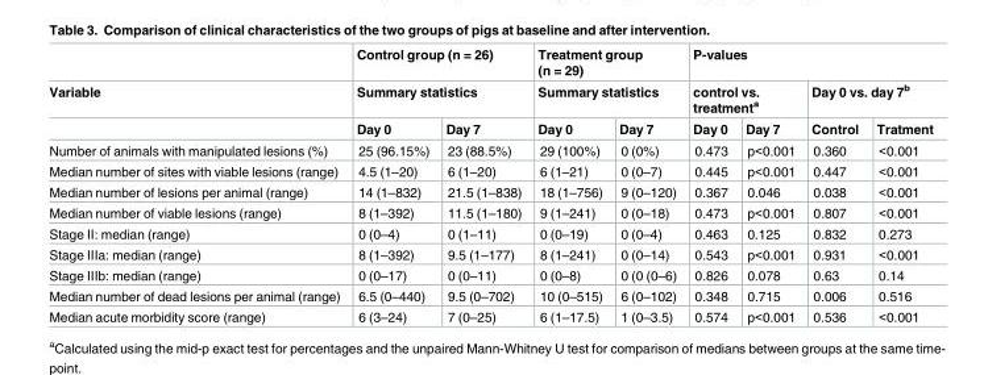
<table><thead><tr><td rowspan="3">Variable</td><td rowspan="2" colspan="2">Control group (n = 26) Summary statistics</td><td rowspan="2" colspan="2">Treatment group (n = 29) Summary statistics</td><td colspan="4">P-values</td></tr><tr><td colspan="2">control vs. treatment<sup>a</sup></td><td colspan="2">Day 0 vs. day 7<sup>b</sup></td></tr><tr><td>Day 0</td><td>Day 7</td><td>Day 0</td><td>Day 7</td><td>Day 0</td><td>Day 7</td><td>Control</td><td>Tratment</td></tr></thead><tbody><tr><td>Number of animals with manipulated lesions (%)</td><td>25 (96.15%)</td><td>23 (88.5%)</td><td>29 (100%)</td><td>0 (0%)</td><td>0.473</td><td>p&lt;0.001</td><td>0.360</td><td>&lt;0.001</td></tr><tr><td>Median number of sites with viable lesions (range)</td><td>4.5 (1–20)</td><td>6 (1–20)</td><td>6 (1–21)</td><td>0 (0–7)</td><td>0.445</td><td>p&lt;0.001</td><td>0.447</td><td>&lt;0.001</td></tr><tr><td>Median number of lesions per animal (range)</td><td>14 (1–832)</td><td>21.5 (1–838)</td><td>18 (1–756)</td><td>9 (0–120)</td><td>0.367</td><td>0.046</td><td>0.038</td><td>&lt;0.001</td></tr><tr><td>Median number of viable lesions (range)</td><td>8 (1–392)</td><td>11.5 (1–180)</td><td>9 (1–241)</td><td>0 (0–18)</td><td>0.473</td><td>p&lt;0.001</td><td>0.807</td><td>&lt;0.001</td></tr><tr><td>Stage II: median (range)</td><td>0 (0–4)</td><td>0 (1–11)</td><td>0 (0–19)</td><td>0 (0–4)</td><td>0.463</td><td>0.125</td><td>0.832</td><td>0.273</td></tr><tr><td>Stage IIIa: median (range)</td><td>8 (1–392)</td><td>9.5 (1–177)</td><td>8 (1–241)</td><td>0 (0–14)</td><td>0.543</td><td>p&lt;0.001</td><td>0.931</td><td>&lt;0.001</td></tr><tr><td>Stage IIIb: median (range)</td><td>0 (0–17)</td><td>0 (0–11)</td><td>0 (0–8)</td><td>0 (0 (0–6)</td><td>0.826</td><td>0.078</td><td>0.63</td><td>0.14</td></tr><tr><td>Median number of dead lesions per animal (range)</td><td>6.5 (0–440)</td><td>9.5 (0–702)</td><td>10 (0–515)</td><td>6 (0–102)</td><td>0.348</td><td>0.715</td><td>0.006</td><td>0.516</td></tr><tr><td>Median acute morbidity score (range)</td><td>6 (3–24)</td><td>7 (0–25)</td><td>6 (1–17.5)</td><td>1 (0–3.5)</td><td>0.574</td><td>p&lt;0.001</td><td>0.536</td><td>&lt;0.001</td></tr></tbody></table>